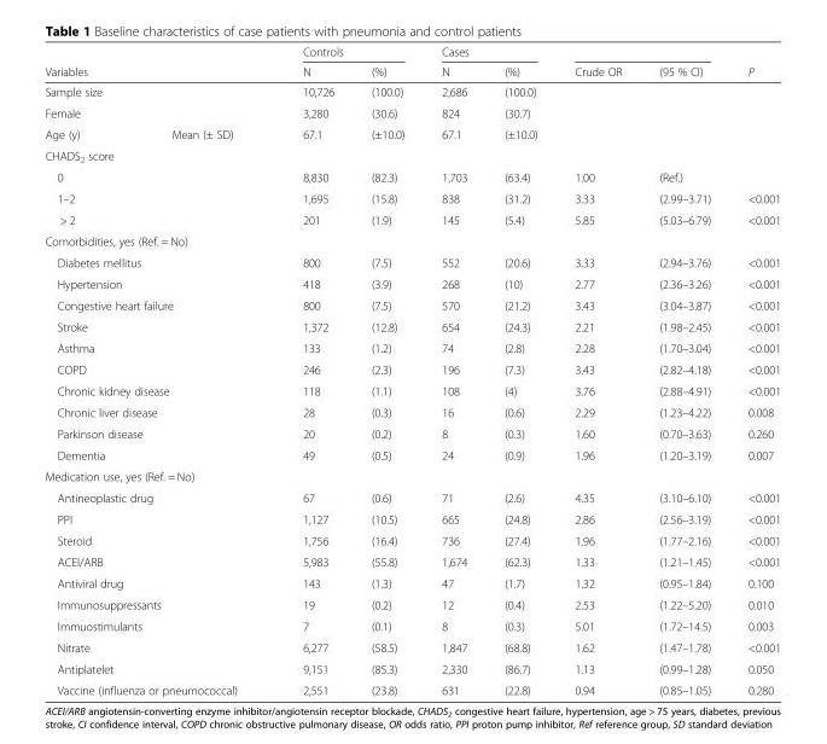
<table><thead><tr><td rowspan="2">Variables</td><td rowspan="2"></td><td colspan="2">Controls</td><td colspan="2">Cases</td><td rowspan="2">Crude OR</td><td rowspan="2">(95 % CI)</td><td rowspan="2">P</td></tr><tr><td>N</td><td>(%)</td><td>N</td><td>(%)</td></tr></thead><tbody><tr><td>Sample size</td><td></td><td>10,726</td><td>(100.0)</td><td>2,686</td><td>(100.0)</td><td></td><td></td><td></td></tr><tr><td>Female</td><td></td><td>3,280</td><td>(30.6)</td><td>824</td><td>(30.7)</td><td></td><td></td><td></td></tr><tr><td>Age (y)</td><td>Mean (± SD)</td><td>67.1</td><td>(±10.0)</td><td>67.1</td><td>(±10.0)</td><td></td><td></td><td></td></tr><tr><td colspan="9">CHADS<sub>2</sub> score</td></tr><tr><td colspan="2">0</td><td>8,830</td><td>(82.3)</td><td>1,703</td><td>(63.4)</td><td>1.00</td><td>(Ref.)</td><td></td></tr><tr><td colspan="2">1–2</td><td>1,695</td><td>(15.8)</td><td>838</td><td>(31.2)</td><td>3.33</td><td>(2.99–3.71)</td><td>&lt;0.001</td></tr><tr><td colspan="2">&gt; 2</td><td>201</td><td>(1.9)</td><td>145</td><td>(5.4)</td><td>5.85</td><td>(5.03–6.79)</td><td>&lt;0.001</td></tr><tr><td colspan="9">Comorbidities, yes (Ref. = No)</td></tr><tr><td colspan="2">Diabetes mellitus</td><td>800</td><td>(7.5)</td><td>552</td><td>(20.6)</td><td>3.33</td><td>(2.94–3.76)</td><td>&lt;0.001</td></tr><tr><td colspan="2">Hypertension</td><td>418</td><td>(3.9)</td><td>268</td><td>(10)</td><td>2.77</td><td>(2.36–3.26)</td><td>&lt;0.001</td></tr><tr><td colspan="2">Congestive heart failure</td><td>800</td><td>(7.5)</td><td>570</td><td>(21.2)</td><td>3.43</td><td>(3.04–3.87)</td><td>&lt;0.001</td></tr><tr><td colspan="2">Stroke</td><td>1,372</td><td>(12.8)</td><td>654</td><td>(24.3)</td><td>2.21</td><td>(1.98–2.45)</td><td>&lt;0.001</td></tr><tr><td colspan="2">Asthma</td><td>133</td><td>(1.2)</td><td>74</td><td>(2.8)</td><td>2.28</td><td>(1.70–3.04)</td><td>&lt;0.001</td></tr><tr><td colspan="2">COPD</td><td>246</td><td>(2.3)</td><td>196</td><td>(7.3)</td><td>3.43</td><td>(2.82–4.18)</td><td>&lt;0.001</td></tr><tr><td colspan="2">Chronic kidney disease</td><td>118</td><td>(1.1)</td><td>108</td><td>(4)</td><td>3.76</td><td>(2.88–4.91)</td><td>&lt;0.001</td></tr><tr><td colspan="2">Chronic liver disease</td><td>28</td><td>(0.3)</td><td>16</td><td>(0.6)</td><td>2.29</td><td>(1.23–4.22)</td><td>0.008</td></tr><tr><td colspan="2">Parkinson disease</td><td>20</td><td>(0.2)</td><td>8</td><td>(0.3)</td><td>1.60</td><td>(0.70–3.63)</td><td>0.260</td></tr><tr><td colspan="2">Dementia</td><td>49</td><td>(0.5)</td><td>24</td><td>(0.9)</td><td>1.96</td><td>(1.20–3.19)</td><td>0.007</td></tr><tr><td colspan="9">Medication use, yes (Ref. = No)</td></tr><tr><td colspan="2">Antineoplastic drug</td><td>67</td><td>(0.6)</td><td>71</td><td>(2.6)</td><td>4.35</td><td>(3.10–6.10)</td><td>&lt;0.001</td></tr><tr><td colspan="2">PPI</td><td>1,127</td><td>(10.5)</td><td>665</td><td>(24.8)</td><td>2.86</td><td>(2.56–3.19)</td><td>&lt;0.001</td></tr><tr><td colspan="2">Steroid</td><td>1,756</td><td>(16.4)</td><td>736</td><td>(27.4)</td><td>1.96</td><td>(1.77–2.16)</td><td>&lt;0.001</td></tr><tr><td colspan="2">ACEI/ARB</td><td>5,983</td><td>(55.8)</td><td>1,674</td><td>(62.3)</td><td>1.33</td><td>(1.21–1.45)</td><td>&lt;0.001</td></tr><tr><td colspan="2">Antiviral drug</td><td>143</td><td>(1.3)</td><td>47</td><td>(1.7)</td><td>1.32</td><td>(0.95–1.84)</td><td>0.100</td></tr><tr><td colspan="2">Immunosuppressants</td><td>19</td><td>(0.2)</td><td>12</td><td>(0.4)</td><td>2.53</td><td>(1.22–5.20)</td><td>0.010</td></tr><tr><td colspan="2">Immuostimulants</td><td>7</td><td>(0.1)</td><td>8</td><td>(0.3)</td><td>5.01</td><td>(1.72–14.5)</td><td>0.003</td></tr><tr><td colspan="2">Nitrate</td><td>6,277</td><td>(58.5)</td><td>1,847</td><td>(68.8)</td><td>1.62</td><td>(1.47–1.78)</td><td>&lt;0.001</td></tr><tr><td colspan="2">Antiplatelet</td><td>9,151</td><td>(85.3)</td><td>2,330</td><td>(86.7)</td><td>1.13</td><td>(0.99–1.28)</td><td>0.050</td></tr><tr><td colspan="2">Vaccine (influenza or pneumococcal)</td><td>2,551</td><td>(23.8)</td><td>631</td><td>(22.8)</td><td>0.94</td><td>(0.85–1.05)</td><td>0.280</td></tr></tbody></table>